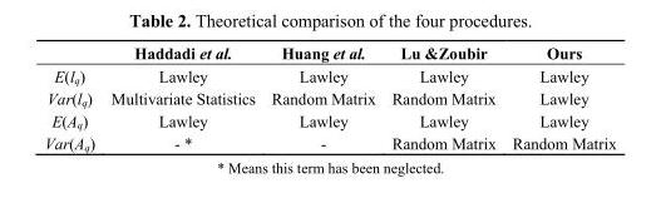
<table><thead><tr><td></td><td>Haddadi et al.</td><td>Huang et al.</td><td>Lu &amp;Zoubir</td><td>Ours</td></tr></thead><tbody><tr><td>E(l<sub>q</sub>)</td><td>Lawley</td><td>Lawley</td><td>Lawley</td><td>Lawley</td></tr><tr><td>Var(l<sub>q</sub>)</td><td>Multivariate Statistics</td><td>Random Matrix</td><td>Random Matrix</td><td>Lawley</td></tr><tr><td>E(A<sub>q</sub>)</td><td>Lawley</td><td>Lawley</td><td>Lawley</td><td>Lawley</td></tr><tr><td>Var(A<sub>q</sub>)</td><td>- *</td><td>-</td><td>Random Matrix</td><td>Random Matrix</td></tr></tbody></table>